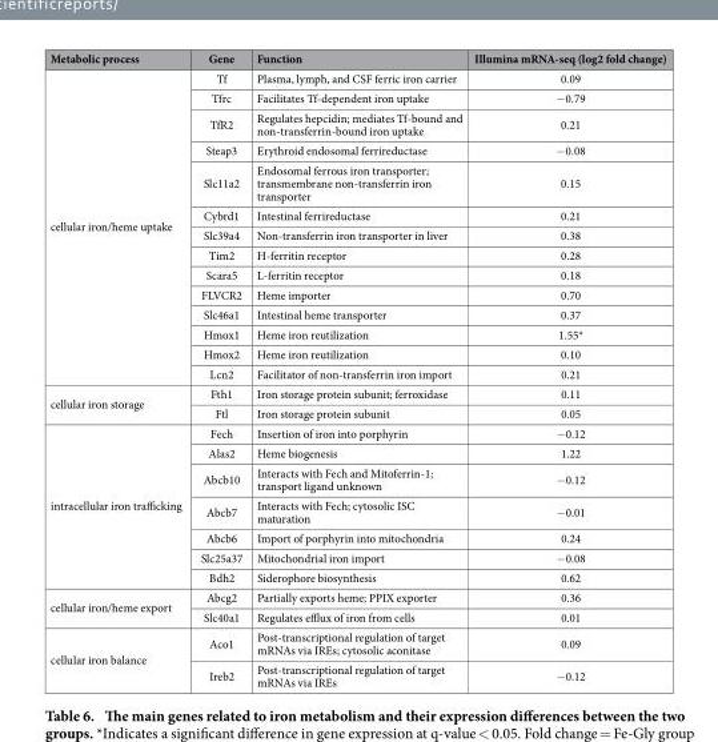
<table><thead><tr><td>Metabolic process</td><td>Gene</td><td>Function</td><td>Illumina mRNA-seq (log2 fold change)</td></tr></thead><tbody><tr><td rowspan="14">cellular iron/heme uptake</td><td>Tf</td><td>Plasma, lymph, and CSF ferric iron carrier</td><td>0.09</td></tr><tr><td>Tfrc</td><td>Facilitates Tf-dependent iron uptake</td><td>− 0.79</td></tr><tr><td>TfR2</td><td>Regulates hepcidin; mediates Tf-bound and non-transferrin-bound iron uptake</td><td>0.21</td></tr><tr><td>Steap3</td><td>Erythroid endosomal ferrireductase</td><td>− 0.08</td></tr><tr><td>Slc11a2</td><td>Endosomal ferrous iron transporter; transmembrane non-transferrin iron transporter</td><td>0.15</td></tr><tr><td>Cybrd1</td><td>Intestinal ferrireductase</td><td>0.21</td></tr><tr><td>Slc39a4</td><td>Non-transferrin iron transporter in liver</td><td>0.38</td></tr><tr><td>Tim2</td><td>H-ferritin receptor</td><td>0.28</td></tr><tr><td>Scara5</td><td>L-ferritin receptor</td><td>0.18</td></tr><tr><td>FLVCR2</td><td>Heme importer</td><td>0.70</td></tr><tr><td>Slc46a1</td><td>Intestinal heme transporter</td><td>0.37</td></tr><tr><td>Hmox1</td><td>Heme iron reutilization</td><td>1.55*</td></tr><tr><td>Hmox2</td><td>Heme iron reutilization</td><td>0.10</td></tr><tr><td>Lcn2</td><td>Facilitator of non-transferrin iron import</td><td>0.21</td></tr><tr><td rowspan="2">cellular iron storage</td><td>Fth1</td><td>Iron storage protein subunit; ferroxidase</td><td>0.11</td></tr><tr><td>Ftl</td><td>Iron storage protein subunit</td><td>0.05</td></tr><tr><td rowspan="7">intracellular iron trafficking</td><td>Fech</td><td>Insertion of iron into porphyrin</td><td>− 0.12</td></tr><tr><td>Alas2</td><td>Heme biogenesis</td><td>1.22</td></tr><tr><td>Abcb10</td><td>Interacts with Fech and Mitoferrin-1; transport ligand unknown</td><td>− 0.12</td></tr><tr><td>Abcb7</td><td>Interacts with Fech; cytosolic ISC maturation</td><td>− 0.01</td></tr><tr><td>Abcb6</td><td>Import of porphyrin into mitochondria</td><td>0.24</td></tr><tr><td>Slc25a37</td><td>Mitochondrial iron import</td><td>− 0.08</td></tr><tr><td>Bdh2</td><td>Siderophore biosynthesis</td><td>0.62</td></tr><tr><td rowspan="2">cellular iron/heme export</td><td>Abcg2</td><td>Partially exports heme; PPIX exporter</td><td>0.36</td></tr><tr><td>Slc40a1</td><td>Regulates efflux of iron from cells</td><td>0.01</td></tr><tr><td rowspan="2">cellular iron balance</td><td>Aco1</td><td>Post-transcriptional regulation of target mRNAs via IREs; cytosolic aconitase</td><td>0.09</td></tr><tr><td>Ireb2</td><td>Post-transcriptional regulation of target mRNAs via IREs</td><td>− 0.12</td></tr></tbody></table>